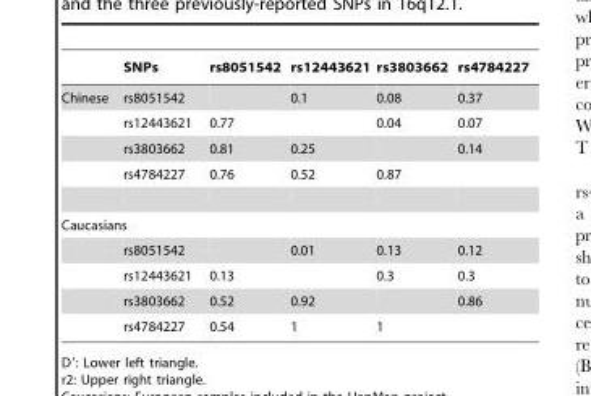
<table><thead><tr><td></td><td>SNPs</td><td>rs8051542</td><td>rs12443621</td><td>rs3803662</td><td>rs4784227</td></tr></thead><tbody><tr><td rowspan="4">Chinese</td><td>rs8051542</td><td></td><td>0.1</td><td>0.08</td><td>0.37</td></tr><tr><td>rs12443621</td><td>0.77</td><td></td><td>0.04</td><td>0.07</td></tr><tr><td>rs3803662</td><td>0.81</td><td>0.25</td><td></td><td>0.14</td></tr><tr><td>rs4784227</td><td>0.76</td><td>0.52</td><td>0.87</td><td></td></tr><tr><td colspan="6">Caucasians</td></tr><tr><td></td><td>rs8051542</td><td></td><td>0.01</td><td>0.13</td><td>0.12</td></tr><tr><td></td><td>rs12443621</td><td>0.13</td><td></td><td>0.3</td><td>0.3</td></tr><tr><td></td><td>rs3803662</td><td>0.52</td><td>0.92</td><td></td><td>0.86</td></tr><tr><td></td><td>rs4784227</td><td>0.54</td><td>1</td><td>1</td><td></td></tr></tbody></table>